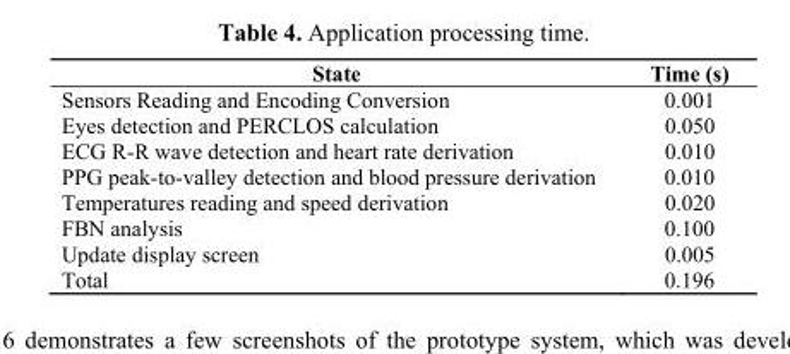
<table><thead><tr><td>State</td><td>Time (s)</td></tr></thead><tbody><tr><td>Sensors Reading and Encoding Conversion</td><td>0.001</td></tr><tr><td>Eyes detection and PERCLOS calculation</td><td>0.050</td></tr><tr><td>ECG R-R wave detection and heart rate derivation</td><td>0.010</td></tr><tr><td>PPG peak-to-valley detection and blood pressure derivation</td><td>0.010</td></tr><tr><td>Temperatures reading and speed derivation</td><td>0.020</td></tr><tr><td>FBN analysis</td><td>0.100</td></tr><tr><td>Update display screen</td><td>0.005</td></tr><tr><td>Total</td><td>0.196</td></tr></tbody></table>